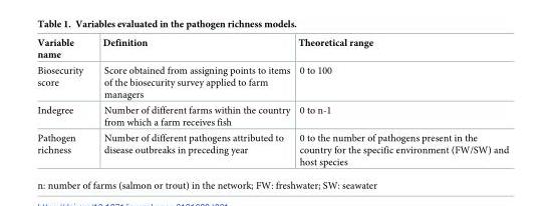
<table><thead><tr><td>Variable name</td><td>Definition</td><td>Theoretical range</td></tr></thead><tbody><tr><td>Biosecurity score</td><td>Score obtained from assigning points to items of the biosecurity survey applied to farm managers</td><td>0 to 100</td></tr><tr><td>Indegree</td><td>Number of different farms within the country from which a farm receives fish</td><td>0 to n-1</td></tr><tr><td>Pathogen richness</td><td>Number of different pathogens attributed to disease outbreaks in preceding year</td><td>0 to the number of pathogens present in the country for the specific environment (FW/SW) and host species</td></tr></tbody></table>